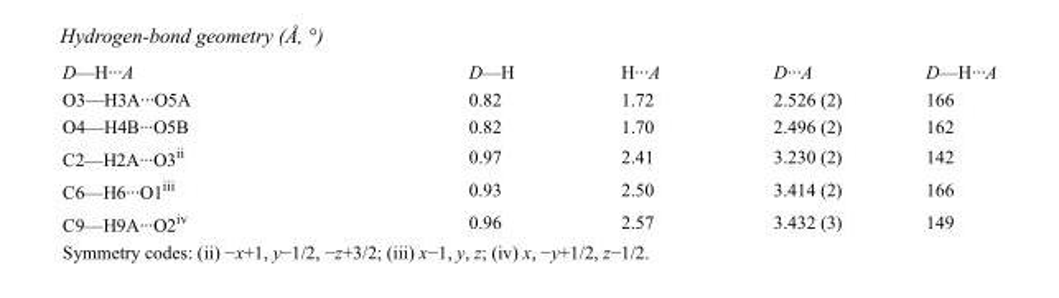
<table><tbody><tr><td>D—H···A</td><td>D—H</td><td>H···A</td><td>D···A</td><td>D—H···A</td></tr><tr><td>O3—H3A···O5A</td><td>0.82</td><td>1.72</td><td>2.526 (2)</td><td>166</td></tr><tr><td>O4—H4B···O5B</td><td>0.82</td><td>1.70</td><td>2.496 (2)</td><td>162</td></tr><tr><td>C2—H2A···O3<sup>ii</sup></td><td>0.97</td><td>2.41</td><td>3.230 (2)</td><td>142</td></tr><tr><td>C6—H6···O1<sup>iii</sup></td><td>0.93</td><td>2.50</td><td>3.414 (2)</td><td>166</td></tr><tr><td>C9—H9A···O2<sup>iv</sup></td><td>0.96</td><td>2.57</td><td>3.432 (3)</td><td>149</td></tr></tbody></table>